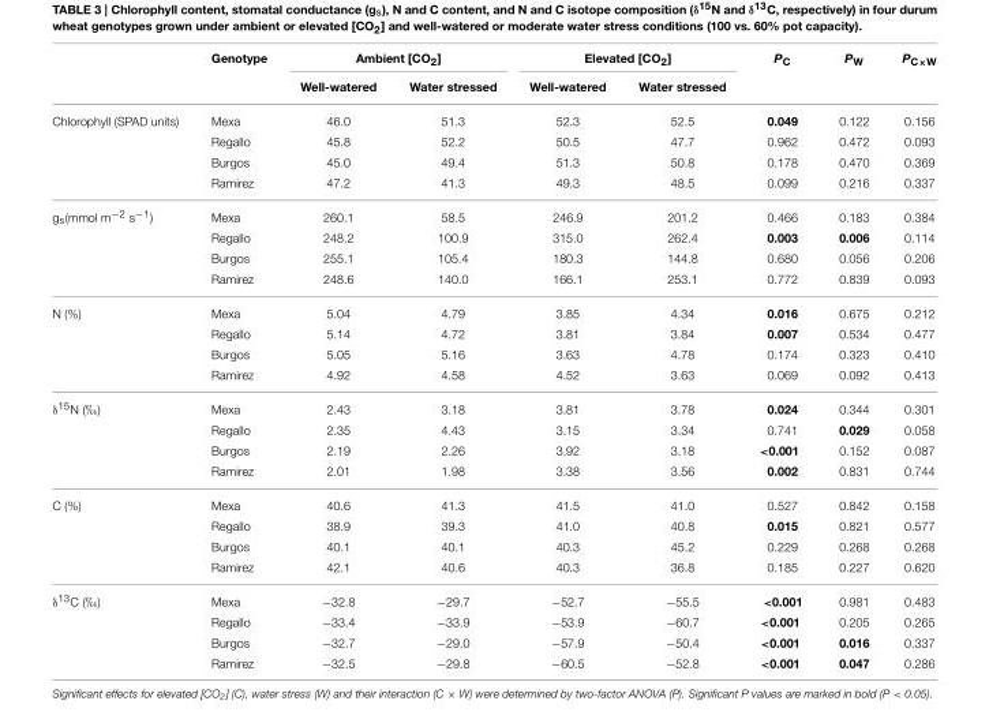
<table><thead><tr><td rowspan="2"></td><td rowspan="2">Genotype</td><td colspan="2">Ambient [CO<sub>2</sub>]</td><td colspan="2">Elevated [CO<sub>2</sub>]</td><td rowspan="2">P<sub>C</sub></td><td rowspan="2">P<sub>W</sub></td><td rowspan="2">P<sub>C×W</sub></td></tr><tr><td>Well-watered</td><td>Water stressed</td><td>Well-watered</td><td>Water stressed</td></tr></thead><tbody><tr><td rowspan="4">Chlorophyll (SPAD units)</td><td>Mexa</td><td>46.0</td><td>51.3</td><td>52.3</td><td>52.5</td><td>0.049</td><td>0.122</td><td>0.156</td></tr><tr><td>Regallo</td><td>45.8</td><td>52.2</td><td>50.5</td><td>47.7</td><td>0.962</td><td>0.472</td><td>0.093</td></tr><tr><td>Burgos</td><td>45.0</td><td>49.4</td><td>51.3</td><td>50.8</td><td>0.178</td><td>0.470</td><td>0.369</td></tr><tr><td>Ramirez</td><td>47.2</td><td>41.3</td><td>49.3</td><td>48.5</td><td>0.099</td><td>0.216</td><td>0.337</td></tr><tr><td rowspan="4">g<sub>s</sub>(mmol m<sup>−2</sup> s<sup>−1</sup>)</td><td>Mexa</td><td>260.1</td><td>58.5</td><td>246.9</td><td>201.2</td><td>0.466</td><td>0.183</td><td>0.384</td></tr><tr><td>Regallo</td><td>248.2</td><td>100.9</td><td>315.0</td><td>262.4</td><td>0.003</td><td>0.006</td><td>0.114</td></tr><tr><td>Burgos</td><td>255.1</td><td>105.4</td><td>180.3</td><td>144.8</td><td>0.680</td><td>0.056</td><td>0.206</td></tr><tr><td>Ramirez</td><td>248.6</td><td>140.0</td><td>166.1</td><td>253.1</td><td>0.772</td><td>0.839</td><td>0.093</td></tr><tr><td rowspan="4">N (%)</td><td>Mexa</td><td>5.04</td><td>4.79</td><td>3.85</td><td>4.34</td><td>0.016</td><td>0.675</td><td>0.212</td></tr><tr><td>Regallo</td><td>5.14</td><td>4.72</td><td>3.81</td><td>3.84</td><td>0.007</td><td>0.534</td><td>0.477</td></tr><tr><td>Burgos</td><td>5.05</td><td>5.16</td><td>3.63</td><td>4.78</td><td>0.174</td><td>0.323</td><td>0.410</td></tr><tr><td>Ramirez</td><td>4.92</td><td>4.58</td><td>4.52</td><td>3.63</td><td>0.069</td><td>0.092</td><td>0.413</td></tr><tr><td rowspan="4">δ<sup>15</sup>N (‰)</td><td>Mexa</td><td>2.43</td><td>3.18</td><td>3.81</td><td>3.78</td><td>0.024</td><td>0.344</td><td>0.301</td></tr><tr><td>Regallo</td><td>2.35</td><td>4.43</td><td>3.15</td><td>3.34</td><td>0.741</td><td>0.029</td><td>0.058</td></tr><tr><td>Burgos</td><td>2.19</td><td>2.26</td><td>3.92</td><td>3.18</td><td>&lt;0.001</td><td>0.152</td><td>0.087</td></tr><tr><td>Ramirez</td><td>2.01</td><td>1.98</td><td>3.38</td><td>3.56</td><td>0.002</td><td>0.831</td><td>0.744</td></tr><tr><td rowspan="4">C (%)</td><td>Mexa</td><td>40.6</td><td>41.3</td><td>41.5</td><td>41.0</td><td>0.527</td><td>0.842</td><td>0.158</td></tr><tr><td>Regallo</td><td>38.9</td><td>39.3</td><td>41.0</td><td>40.8</td><td>0.015</td><td>0.821</td><td>0.577</td></tr><tr><td>Burgos</td><td>40.1</td><td>40.1</td><td>40.3</td><td>45.2</td><td>0.229</td><td>0.268</td><td>0.268</td></tr><tr><td>Ramirez</td><td>42.1</td><td>40.6</td><td>40.3</td><td>36.8</td><td>0.185</td><td>0.227</td><td>0.620</td></tr><tr><td rowspan="4">δ<sup>13</sup>C (‰)</td><td>Mexa</td><td>−32.8</td><td>−29.7</td><td>−52.7</td><td>−55.5</td><td>&lt;0.001</td><td>0.981</td><td>0.483</td></tr><tr><td>Regallo</td><td>−33.4</td><td>−33.9</td><td>−53.9</td><td>−60.7</td><td>&lt;0.001</td><td>0.205</td><td>0.265</td></tr><tr><td>Burgos</td><td>−32.7</td><td>−29.0</td><td>−57.9</td><td>−50.4</td><td>&lt;0.001</td><td>0.016</td><td>0.337</td></tr><tr><td>Ramirez</td><td>−32.5</td><td>−29.8</td><td>−60.5</td><td>−52.8</td><td>&lt;0.001</td><td>0.047</td><td>0.286</td></tr></tbody></table>